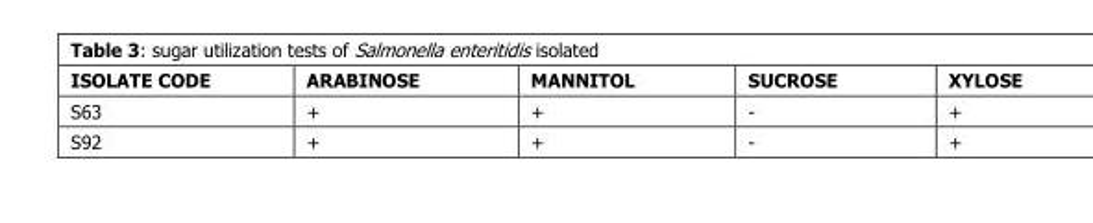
<table><thead><tr><td>ISOLATE CODE</td><td>ARABINOSE</td><td>MANNITOL</td><td>SUCROSE</td><td>XYLOSE</td></tr></thead><tbody><tr><td>S63</td><td>+</td><td>+</td><td>-</td><td>+</td></tr><tr><td>S92</td><td>+</td><td>+</td><td>-</td><td>+</td></tr></tbody></table>